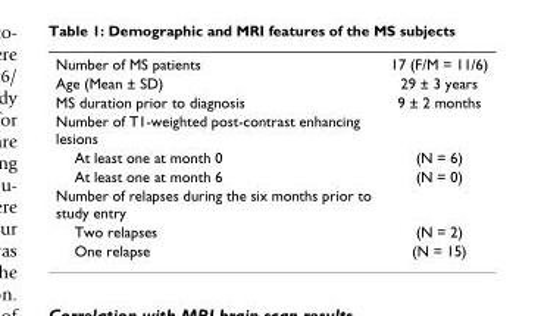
<table><tbody><tr><td>Number of MS patients</td><td>17 (F/M = 11/6)</td></tr><tr><td>Age (Mean ± SD)</td><td>29 ± 3 years</td></tr><tr><td>MS duration prior to diagnosis</td><td>9 ± 2 months</td></tr><tr><td colspan="2">Number of T1-weighted post-contrast enhancing lesions</td></tr><tr><td>At least one at month 0</td><td>(N = 6)</td></tr><tr><td>At least one at month 6</td><td>(N = 0)</td></tr><tr><td colspan="2">Number of relapses during the six months prior to study entry</td></tr><tr><td>Two relapses</td><td>(N = 2)</td></tr><tr><td>One relapse</td><td>(N = 15)</td></tr></tbody></table>